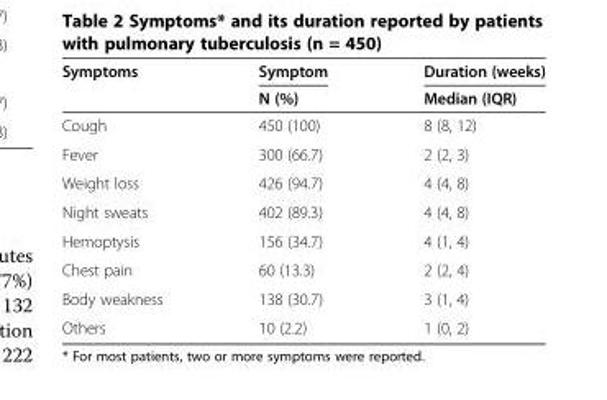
<table><thead><tr><td rowspan="2">Symptoms</td><td rowspan="2">Symptom N (%)</td><td rowspan="2">Duration (weeks) Median (IQR)</td></tr><tr></tr></thead><tbody><tr><td>Cough</td><td>450 (100)</td><td>8 (8, 12)</td></tr><tr><td>Fever</td><td>300 (66.7)</td><td>2 (2, 3)</td></tr><tr><td>Weight loss</td><td>426 (94.7)</td><td>4 (4, 8)</td></tr><tr><td>Night sweats</td><td>402 (89.3)</td><td>4 (4, 8)</td></tr><tr><td>Hemoptysis</td><td>156 (34.7)</td><td>4 (1, 4)</td></tr><tr><td>Chest pain</td><td>60 (13.3)</td><td>2 (2, 4)</td></tr><tr><td>Body weakness</td><td>138 (30.7)</td><td>3 (1, 4)</td></tr><tr><td>Others</td><td>10 (2.2)</td><td>1 (0, 2)</td></tr></tbody></table>